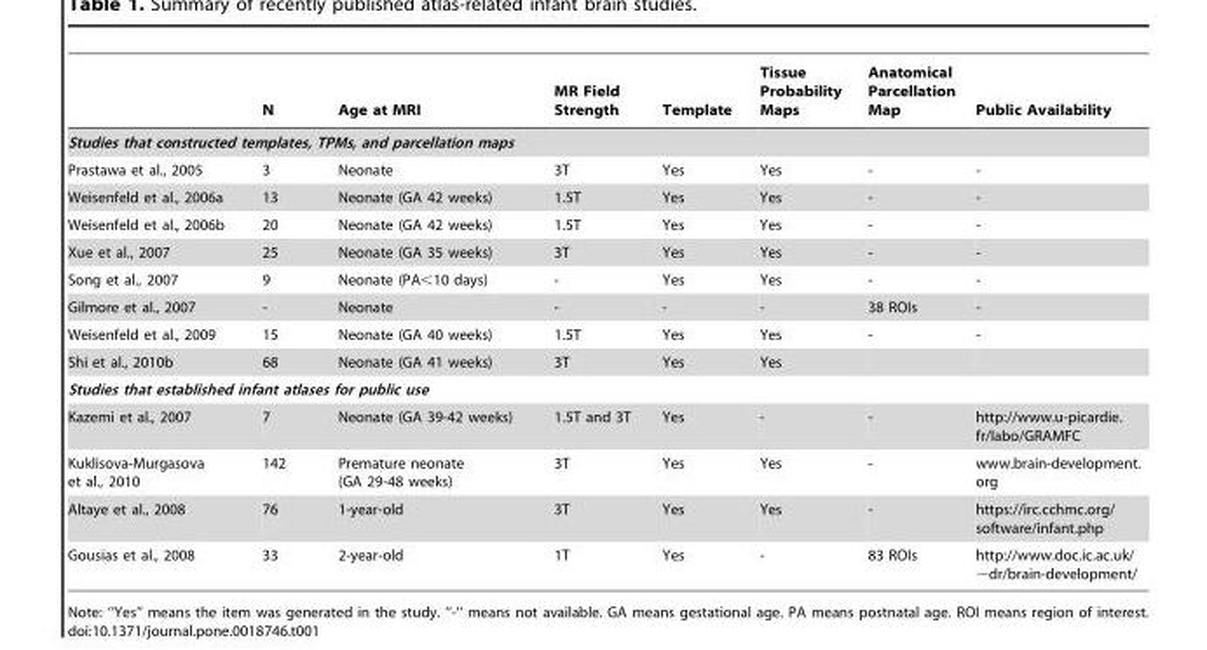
<table><thead><tr><td></td><td>N</td><td>Age at MRI</td><td>MR Field Strength</td><td>Template</td><td>Tissue Probability Maps</td><td>Anatomical Parcellation Map</td><td>Public Availability</td></tr></thead><tbody><tr><td colspan="8">Studies that constructed templates, TPMs, and parcellation maps</td></tr><tr><td>Prastawa et al., 2005</td><td>3</td><td>Neonate</td><td>3T</td><td>Yes</td><td>Yes</td><td>-</td><td>-</td></tr><tr><td>Weisenfeld et al., 2006a</td><td>13</td><td>Neonate (GA 42 weeks)</td><td>1.5T</td><td>Yes</td><td>Yes</td><td>-</td><td>-</td></tr><tr><td>Weisenfeld et al., 2006b</td><td>20</td><td>Neonate (GA 42 weeks)</td><td>1.5T</td><td>Yes</td><td>Yes</td><td>-</td><td>-</td></tr><tr><td>Xue et al., 2007</td><td>25</td><td>Neonate (GA 35 weeks)</td><td>3T</td><td>Yes</td><td>Yes</td><td>-</td><td>-</td></tr><tr><td>Song et al., 2007</td><td>9</td><td>Neonate (PA&lt;10 days)</td><td>-</td><td>Yes</td><td>Yes</td><td>-</td><td>-</td></tr><tr><td>Gilmore et al., 2007</td><td>-</td><td>Neonate</td><td>-</td><td>-</td><td>-</td><td>38 ROIs</td><td>-</td></tr><tr><td>Weisenfeld et al., 2009</td><td>15</td><td>Neonate (GA 40 weeks)</td><td>1.5T</td><td>Yes</td><td>Yes</td><td>-</td><td>-</td></tr><tr><td>Shi et al., 2010b</td><td>68</td><td>Neonate (GA 41 weeks)</td><td>3T</td><td>Yes</td><td>Yes</td><td></td><td></td></tr><tr><td colspan="8">Studies that established infant atlases for public use</td></tr><tr><td>Kazemi et al., 2007</td><td>7</td><td>Neonate (GA 39-42 weeks)</td><td>1.5T and 3T</td><td>Yes</td><td>-</td><td>-</td><td>http://www.u-picardie. fr/labo/GRAMFC</td></tr><tr><td>Kuklisova-Murgasova et al., 2010</td><td>142</td><td>Premature neonate (GA 29-48 weeks)</td><td>3T</td><td>Yes</td><td>Yes</td><td>-</td><td>www.brain-development. org</td></tr><tr><td>Altaye et al., 2008</td><td>76</td><td>1-year-old</td><td>3T</td><td>Yes</td><td>Yes</td><td>-</td><td>https://irc.cchmc.org/ software/infant.php</td></tr><tr><td>Gousias et al., 2008</td><td>33</td><td>2-year-old</td><td>1T</td><td>Yes</td><td>-</td><td>83 ROIs</td><td>http://www.doc.ic.ac.uk/ ~dr/brain-development/</td></tr></tbody></table>